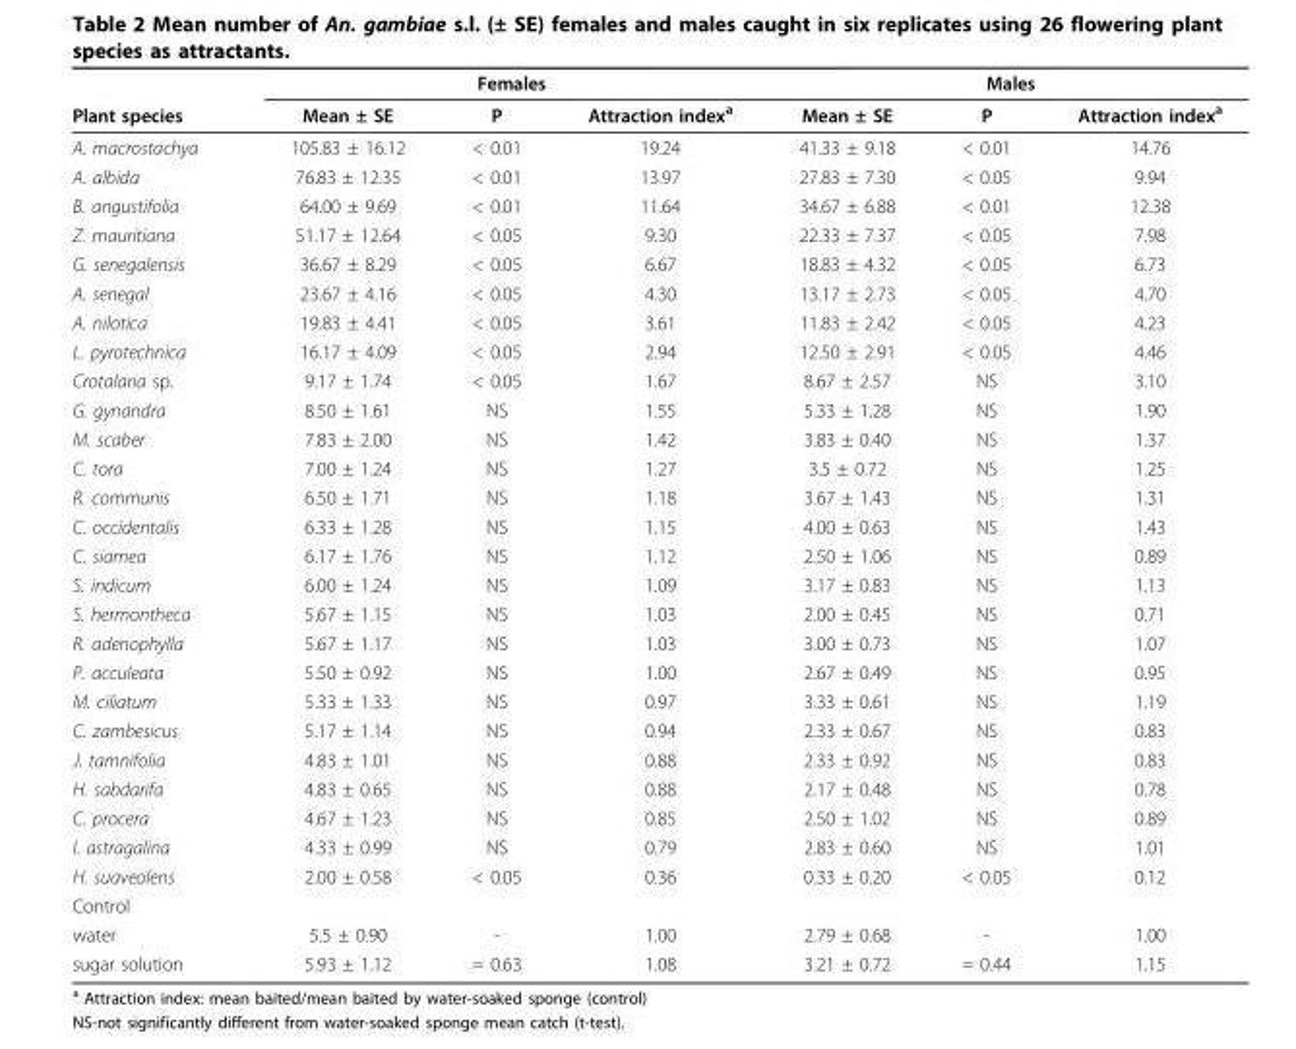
<table><thead><tr><td rowspan="2">Plant species</td><td colspan="3">Females</td><td colspan="3">Males</td></tr><tr><td>Mean ± SE</td><td>P</td><td>Attraction index<sup>a</sup></td><td>Mean ± SE</td><td>P</td><td>Attraction index<sup>a</sup></td></tr></thead><tbody><tr><td>A. macrostachya</td><td>105.83 ± 16.12</td><td>&lt; 0.01</td><td>19.24</td><td>41.33 ± 9.18</td><td>&lt; 0.01</td><td>14.76</td></tr><tr><td>A. albida</td><td>76.83 ± 12.35</td><td>&lt; 0.01</td><td>13.97</td><td>27.83 ± 7.30</td><td>&lt; 0.05</td><td>9.94</td></tr><tr><td>B. angustifolia</td><td>64.00 ± 9.69</td><td>&lt; 0.01</td><td>11.64</td><td>34.67 ± 6.88</td><td>&lt; 0.01</td><td>12.38</td></tr><tr><td>Z. mauritiana</td><td>51.17 ± 12.64</td><td>&lt; 0.05</td><td>9.30</td><td>22.33 ± 7.37</td><td>&lt; 0.05</td><td>7.98</td></tr><tr><td>G. senegalensis</td><td>36.67 ± 8.29</td><td>&lt; 0.05</td><td>6.67</td><td>18.83 ± 4.32</td><td>&lt; 0.05</td><td>6.73</td></tr><tr><td>A. senegal</td><td>23.67 ± 4.16</td><td>&lt; 0.05</td><td>4.30</td><td>13.17 ± 2.73</td><td>&lt; 0.05</td><td>4.70</td></tr><tr><td>A. nilotica</td><td>19.83 ± 4.41</td><td>&lt; 0.05</td><td>3.61</td><td>11.83 ± 2.42</td><td>&lt; 0.05</td><td>4.23</td></tr><tr><td>L. pyrotechnica</td><td>16.17 ± 4.09</td><td>&lt; 0.05</td><td>2.94</td><td>12.50 ± 2.91</td><td>&lt; 0.05</td><td>4.46</td></tr><tr><td>Crotalaria sp.</td><td>9.17 ± 1.74</td><td>&lt; 0.05</td><td>1.67</td><td>8.67 ± 2.57</td><td>NS</td><td>3.10</td></tr><tr><td>G. gynandra</td><td>8.50 ± 1.61</td><td>NS</td><td>1.55</td><td>5.33 ± 1.28</td><td>NS</td><td>1.90</td></tr><tr><td>M. scaber</td><td>7.83 ± 2.00</td><td>NS</td><td>1.42</td><td>3.83 ± 0.40</td><td>NS</td><td>1.37</td></tr><tr><td>C. tora</td><td>7.00 ± 1.24</td><td>NS</td><td>1.27</td><td>3.5 ± 0.72</td><td>NS</td><td>1.25</td></tr><tr><td>R. communis</td><td>6.50 ± 1.71</td><td>NS</td><td>1.18</td><td>3.67 ± 1.43</td><td>NS</td><td>1.31</td></tr><tr><td>C. occidentalis</td><td>6.33 ± 1.28</td><td>NS</td><td>1.15</td><td>4.00 ± 0.63</td><td>NS</td><td>1.43</td></tr><tr><td>C. siamea</td><td>6.17 ± 1.76</td><td>NS</td><td>1.12</td><td>2.50 ± 1.06</td><td>NS</td><td>0.89</td></tr><tr><td>S. indicum</td><td>6.00 ± 1.24</td><td>NS</td><td>1.09</td><td>3.17 ± 0.83</td><td>NS</td><td>1.13</td></tr><tr><td>S. hermontheca</td><td>5.67 ± 1.15</td><td>NS</td><td>1.03</td><td>2.00 ± 0.45</td><td>NS</td><td>0.71</td></tr><tr><td>R. adenophylla</td><td>5.67 ± 1.17</td><td>NS</td><td>1.03</td><td>3.00 ± 0.73</td><td>NS</td><td>1.07</td></tr><tr><td>P. acculeata</td><td>5.50 ± 0.92</td><td>NS</td><td>1.00</td><td>2.67 ± 0.49</td><td>NS</td><td>0.95</td></tr><tr><td>M. ciliatum</td><td>5.33 ± 1.33</td><td>NS</td><td>0.97</td><td>3.33 ± 0.61</td><td>NS</td><td>1.19</td></tr><tr><td>C. zambesicus</td><td>5.17 ± 1.14</td><td>NS</td><td>0.94</td><td>2.33 ± 0.67</td><td>NS</td><td>0.83</td></tr><tr><td>J. tamnifolia</td><td>4.83 ± 1.01</td><td>NS</td><td>0.88</td><td>2.33 ± 0.92</td><td>NS</td><td>0.83</td></tr><tr><td>H. sabdarifa</td><td>4.83 ± 0.65</td><td>NS</td><td>0.88</td><td>2.17 ± 0.48</td><td>NS</td><td>0.78</td></tr><tr><td>C. procera</td><td>4.67 ± 1.23</td><td>NS</td><td>0.85</td><td>2.50 ± 1.02</td><td>NS</td><td>0.89</td></tr><tr><td>I. astragalina</td><td>4.33 ± 0.99</td><td>NS</td><td>0.79</td><td>2.83 ± 0.60</td><td>NS</td><td>1.01</td></tr><tr><td>H. suaveolens</td><td>2.00 ± 0.58</td><td>&lt; 0.05</td><td>0.36</td><td>0.33 ± 0.20</td><td>&lt; 0.05</td><td>0.12</td></tr><tr><td colspan="7">Control</td></tr><tr><td>water</td><td>5.5 ± 0.90</td><td>-</td><td>1.00</td><td>2.79 ± 0.68</td><td>-</td><td>1.00</td></tr><tr><td>sugar solution</td><td>5.93 ± 1.12</td><td>= 0.63</td><td>1.08</td><td>3.21 ± 0.72</td><td>= 0.44</td><td>1.15</td></tr></tbody></table>